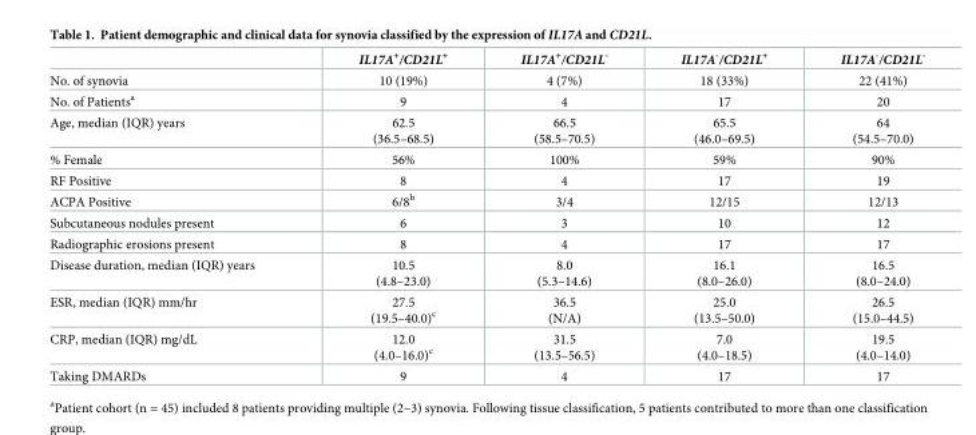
<table><thead><tr><td></td><td>IL17A<sup>+</sup>/CD21L<sup>+</sup></td><td>IL17A<sup>+</sup>/CD21L<sup>-</sup></td><td>IL17A<sup>-</sup>/CD21L<sup>+</sup></td><td>IL17A<sup>-</sup>/CD21L<sup>-</sup></td></tr></thead><tbody><tr><td>No. of synovia</td><td>10 (19%)</td><td>4 (7%)</td><td>18 (33%)</td><td>22 (41%)</td></tr><tr><td>No. of Patients<sup>a</sup></td><td>9</td><td>4</td><td>17</td><td>20</td></tr><tr><td>Age, median (IQR) years</td><td>62.5 (36.5–68.5)</td><td>66.5 (58.5–70.5)</td><td>65.5 (46.0–69.5)</td><td>64 (54.5–70.0)</td></tr><tr><td>% Female</td><td>56%</td><td>100%</td><td>59%</td><td>90%</td></tr><tr><td>RF Positive</td><td>8</td><td>4</td><td>17</td><td>19</td></tr><tr><td>ACPA Positive</td><td>6/8<sup>b</sup></td><td>3/4</td><td>12/15</td><td>12/13</td></tr><tr><td>Subcutaneous nodules present</td><td>6</td><td>3</td><td>10</td><td>12</td></tr><tr><td>Radiographic erosions present</td><td>8</td><td>4</td><td>17</td><td>17</td></tr><tr><td>Disease duration, median (IQR) years</td><td>10.5 (4.8–23.0)</td><td>8.0 (5.3–14.6)</td><td>16.1 (8.0–26.0)</td><td>16.5 (8.0–24.0)</td></tr><tr><td>ESR, median (IQR) mm/hr</td><td>27.5 (19.5–40.0)<sup>c</sup></td><td>36.5 (N/A)</td><td>25.0 (13.5–50.0)</td><td>26.5 (15.0–44.5)</td></tr><tr><td>CRP, median (IQR) mg/dL</td><td>12.0 (4.0–16.0)<sup>c</sup></td><td>31.5 (13.5–56.5)</td><td>7.0 (4.0–18.5)</td><td>19.5 (4.0–14.0)</td></tr><tr><td>Taking DMARDs</td><td>9</td><td>4</td><td>17</td><td>17</td></tr></tbody></table>